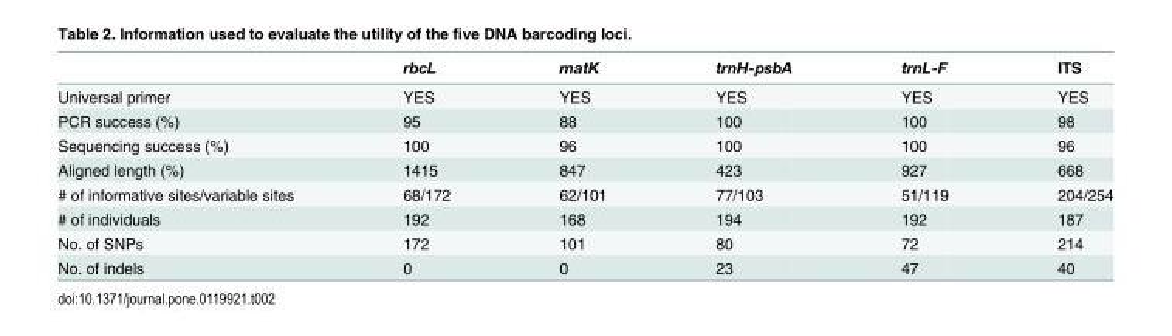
<table><thead><tr><td></td><td>rbcL</td><td>matK</td><td>trnH-psbA</td><td>trnL-F</td><td>ITS</td></tr></thead><tbody><tr><td>Universal primer</td><td>YES</td><td>YES</td><td>YES</td><td>YES</td><td>YES</td></tr><tr><td>PCR success (%)</td><td>95</td><td>88</td><td>100</td><td>100</td><td>98</td></tr><tr><td>Sequencing success (%)</td><td>100</td><td>96</td><td>100</td><td>100</td><td>96</td></tr><tr><td>Aligned length (%)</td><td>1415</td><td>847</td><td>423</td><td>927</td><td>668</td></tr><tr><td># of informative sites/variable sites</td><td>68/172</td><td>62/101</td><td>77/103</td><td>51/119</td><td>204/254</td></tr><tr><td># of individuals</td><td>192</td><td>168</td><td>194</td><td>192</td><td>187</td></tr><tr><td>No. of SNPs</td><td>172</td><td>101</td><td>80</td><td>72</td><td>214</td></tr><tr><td>No. of indels</td><td>0</td><td>0</td><td>23</td><td>47</td><td>40</td></tr></tbody></table>